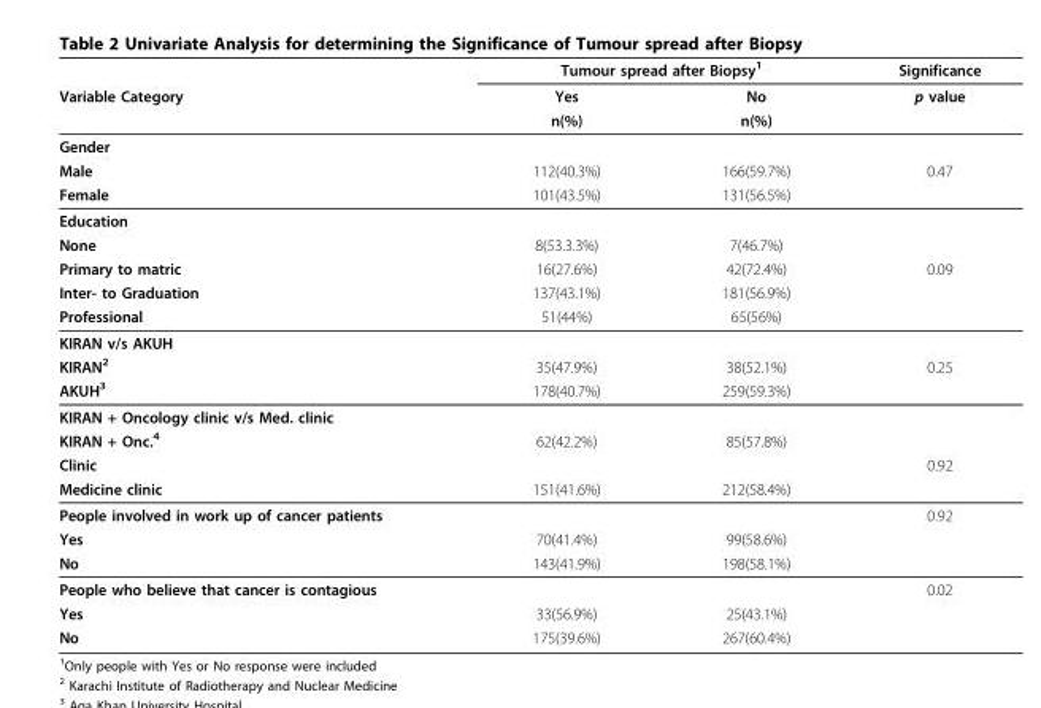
<table><thead><tr><td rowspan="3">Variable Category</td><td colspan="2">Tumour spread after Biopsy1</td><td rowspan="3">Significance p value</td></tr><tr><td rowspan="2">Yes n(%)</td><td rowspan="2">No n(%)</td></tr><tr></tr></thead><tbody><tr><td colspan="4">Gender</td></tr><tr><td>Male</td><td>112(40.3%)</td><td>166(59.7%)</td><td>0.47</td></tr><tr><td>Female</td><td>101(43.5%)</td><td>131(56.5%)</td><td></td></tr><tr><td colspan="4">Education</td></tr><tr><td>None</td><td>8(53.3.3%)</td><td>7(46.7%)</td><td></td></tr><tr><td>Primary to matric</td><td>16(27.6%)</td><td>42(72.4%)</td><td>0.09</td></tr><tr><td>Inter- to Graduation</td><td>137(43.1%)</td><td>181(56.9%)</td><td></td></tr><tr><td>Professional</td><td>51(44%)</td><td>65(56%)</td><td></td></tr><tr><td colspan="4">KIRAN v/s AKUH</td></tr><tr><td>KIRAN<sup>2</sup></td><td>35(47.9%)</td><td>38(52.1%)</td><td>0.25</td></tr><tr><td>AKUH<sup>3</sup></td><td>178(40.7%)</td><td>259(59.3%)</td><td></td></tr><tr><td colspan="4">KIRAN + Oncology clinic v/s Med. clinic</td></tr><tr><td>KIRAN + Onc.<sup>4</sup></td><td>62(42.2%)</td><td>85(57.8%)</td><td></td></tr><tr><td>Clinic</td><td></td><td></td><td>0.92</td></tr><tr><td>Medicine clinic</td><td>151(41.6%)</td><td>212(58.4%)</td><td></td></tr><tr><td>People involved in work up of cancer patients</td><td></td><td></td><td>0.92</td></tr><tr><td>Yes</td><td>70(41.4%)</td><td>99(58.6%)</td><td></td></tr><tr><td>No</td><td>143(41.9%)</td><td>198(58.1%)</td><td></td></tr><tr><td>People who believe that cancer is contagious</td><td></td><td></td><td>0.02</td></tr><tr><td>Yes</td><td>33(56.9%)</td><td>25(43.1%)</td><td></td></tr><tr><td>No</td><td>175(39.6%)</td><td>267(60.4%)</td><td></td></tr></tbody></table>